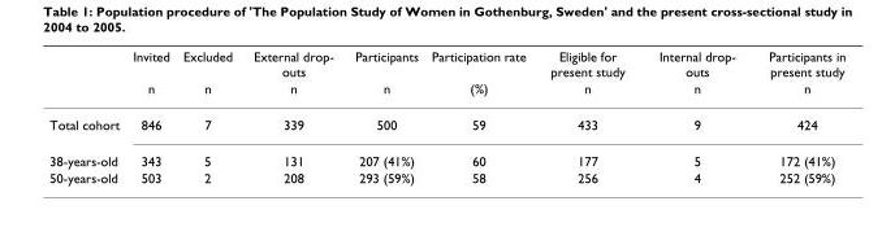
<table><thead><tr><td rowspan="2"></td><td rowspan="2">Invited n</td><td rowspan="2">Excluded n</td><td rowspan="2">External drop- outs n</td><td rowspan="2">Participants n</td><td rowspan="2">Participation rate (%)</td><td rowspan="2">Eligible for present study n</td><td rowspan="2">Internal drop- outs n</td><td rowspan="2">Participants in present study n</td></tr><tr></tr></thead><tbody><tr><td>Total cohort</td><td>846</td><td>7</td><td>339</td><td>500</td><td>59</td><td>433</td><td>9</td><td>424</td></tr><tr><td>38-years-old</td><td>343</td><td>5</td><td>131</td><td>207 (41%)</td><td>60</td><td>177</td><td>5</td><td>172 (41%)</td></tr><tr><td>50-years-old</td><td>503</td><td>2</td><td>208</td><td>293 (59%)</td><td>58</td><td>256</td><td>4</td><td>252 (59%)</td></tr></tbody></table>